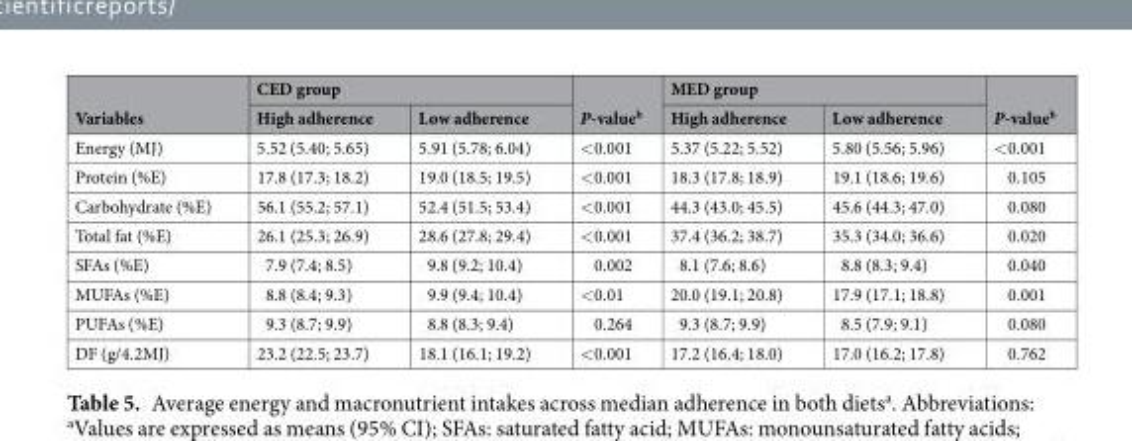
<table><thead><tr><td rowspan="2">Variables</td><td colspan="2">CED group</td><td rowspan="2">P-value<sup>b</sup></td><td colspan="2">MED group</td><td rowspan="2">P-value<sup>b</sup></td></tr><tr><td>High adherence</td><td>Low adherence</td><td>High adherence</td><td>Low adherence</td></tr></thead><tbody><tr><td>Energy (MJ)</td><td>5.52 (5.40; 5.65)</td><td>5.91 (5.78; 6.04)</td><td>&lt;0.001</td><td>5.37 (5.22; 5.52)</td><td>5.80 (5.56; 5.96)</td><td>&lt;0.001</td></tr><tr><td>Protein (%E)</td><td>17.8 (17.3; 18.2)</td><td>19.0 (18.5; 19.5)</td><td>&lt;0.001</td><td>18.3 (17.8; 18.9)</td><td>19.1 (18.6; 19.6)</td><td>0.105</td></tr><tr><td>Carbohydrate (%E)</td><td>56.1 (55.2; 57.1)</td><td>52.4 (51.5; 53.4)</td><td>&lt;0.001</td><td>44.3 (43.0; 45.5)</td><td>45.6 (44.3; 47.0)</td><td>0.080</td></tr><tr><td>Total fat (%E)</td><td>26.1 (25.3; 26.9)</td><td>28.6 (27.8; 29.4)</td><td>&lt;0.001</td><td>37.4 (36.2; 38.7)</td><td>35.3 (34.0; 36.6)</td><td>0.020</td></tr><tr><td>SFAs (%E)</td><td>7.9 (7.4; 8.5)</td><td>9.8 (9.2; 10.4)</td><td>0.002</td><td>8.1 (7.6; 8.6)</td><td>8.8 (8.3; 9.4)</td><td>0.040</td></tr><tr><td>MUFAs (%E)</td><td>8.8 (8.4; 9.3)</td><td>9.9 (9.4; 10.4)</td><td>&lt;0.01</td><td>20.0 (19.1; 20.8)</td><td>17.9 (17.1; 18.8)</td><td>0.001</td></tr><tr><td>PUFAs (%E)</td><td>9.3 (8.7; 9.9)</td><td>8.8 (8.3; 9.4)</td><td>0.264</td><td>9.3 (8.7; 9.9)</td><td>8.5 (7.9; 9.1)</td><td>0.080</td></tr><tr><td>DF (g/4.2MJ)</td><td>23.2 (22.5; 23.7)</td><td>18.1 (16.1; 19.2)</td><td>&lt;0.001</td><td>17.2 (16.4; 18.0)</td><td>17.0 (16.2; 17.8)</td><td>0.762</td></tr></tbody></table>